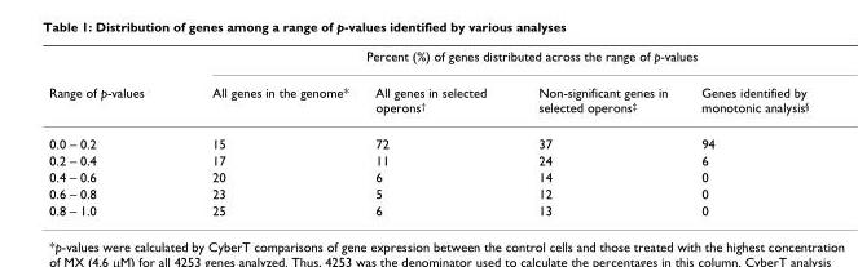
<table><thead><tr><td rowspan="2">Range of p-values</td><td colspan="4">Percent (%) of genes distributed across the range of p-values</td></tr><tr><td>All genes in the genome*</td><td>All genes in selected operons<sup>†</sup></td><td>Non-significant genes in selected operons<sup>‡</sup></td><td>Genes identified by monotonic analysis<sup>§</sup></td></tr></thead><tbody><tr><td>0.0 – 0.2</td><td>15</td><td>72</td><td>37</td><td>94</td></tr><tr><td>0.2 – 0.4</td><td>17</td><td>11</td><td>24</td><td>6</td></tr><tr><td>0.4 – 0.6</td><td>20</td><td>6</td><td>14</td><td>0</td></tr><tr><td>0.6 – 0.8</td><td>23</td><td>5</td><td>12</td><td>0</td></tr><tr><td>0.8 – 1.0</td><td>25</td><td>6</td><td>13</td><td>0</td></tr></tbody></table>